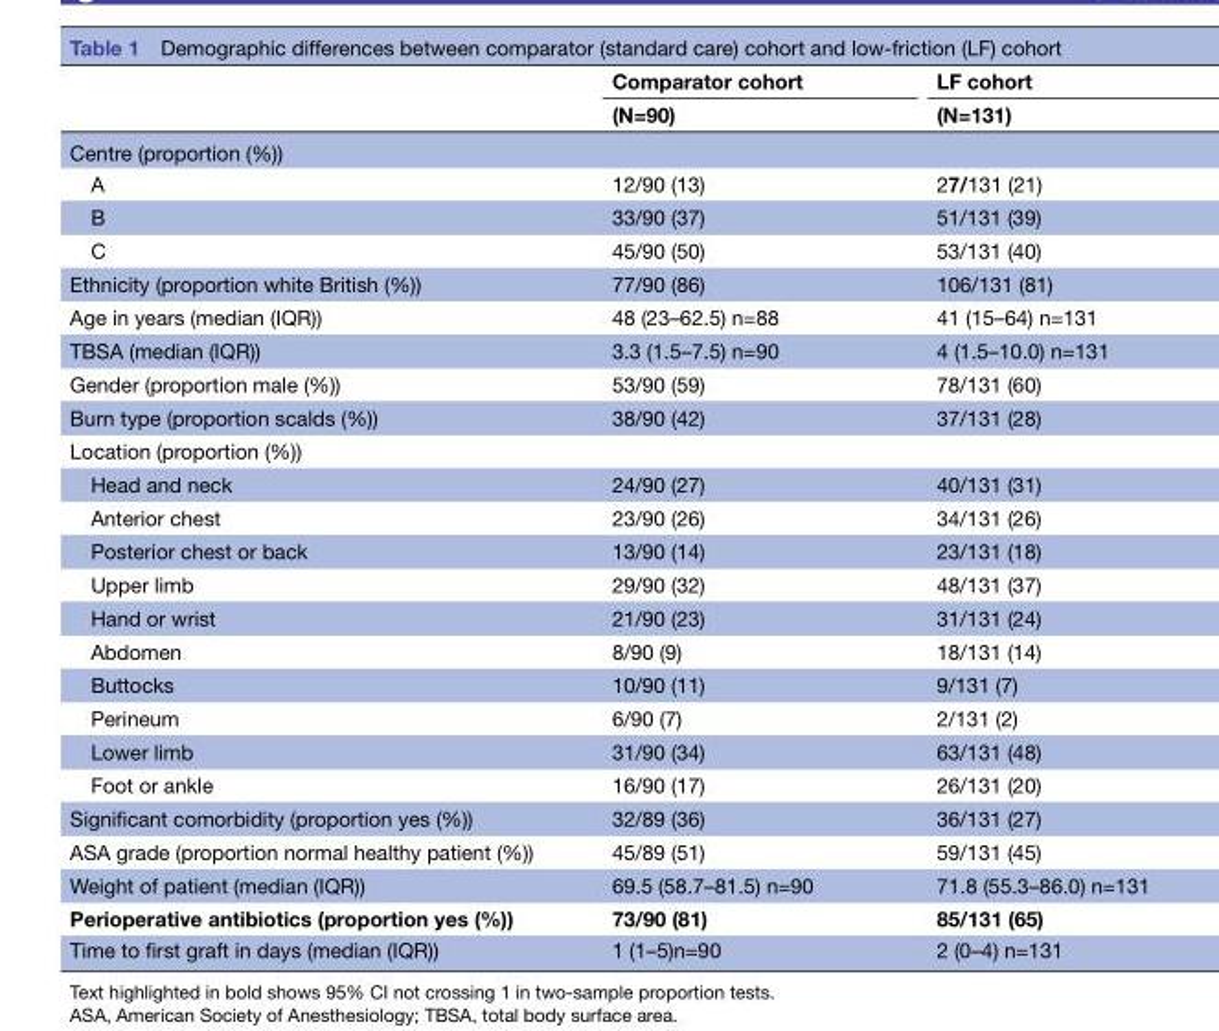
<table><thead><tr><td rowspan="2"></td><td rowspan="2">Comparator cohort (N=90)</td><td rowspan="2">LF cohort (N=131)</td></tr><tr></tr></thead><tbody><tr><td colspan="3">Centre (proportion (%))</td></tr><tr><td>A</td><td>12/90 (13)</td><td>27/131 (21)</td></tr><tr><td>B</td><td>33/90 (37)</td><td>51/131 (39)</td></tr><tr><td>C</td><td>45/90 (50)</td><td>53/131 (40)</td></tr><tr><td>Ethnicity (proportion white British (%))</td><td>77/90 (86)</td><td>106/131 (81)</td></tr><tr><td>Age in years (median (IQR))</td><td>48 (23–62.5) n=88</td><td>41 (15–64) n=131</td></tr><tr><td>TBSA (median (IQR))</td><td>3.3 (1.5–7.5) n=90</td><td>4 (1.5–10.0) n=131</td></tr><tr><td>Gender (proportion male (%))</td><td>53/90 (59)</td><td>78/131 (60)</td></tr><tr><td>Burn type (proportion scalds (%))</td><td>38/90 (42)</td><td>37/131 (28)</td></tr><tr><td colspan="3">Location (proportion (%))</td></tr><tr><td>Head and neck</td><td>24/90 (27)</td><td>40/131 (31)</td></tr><tr><td>Anterior chest</td><td>23/90 (26)</td><td>34/131 (26)</td></tr><tr><td>Posterior chest or back</td><td>13/90 (14)</td><td>23/131 (18)</td></tr><tr><td>Upper limb</td><td>29/90 (32)</td><td>48/131 (37)</td></tr><tr><td>Hand or wrist</td><td>21/90 (23)</td><td>31/131 (24)</td></tr><tr><td>Abdomen</td><td>8/90 (9)</td><td>18/131 (14)</td></tr><tr><td>Buttocks</td><td>10/90 (11)</td><td>9/131 (7)</td></tr><tr><td>Perineum</td><td>6/90 (7)</td><td>2/131 (2)</td></tr><tr><td>Lower limb</td><td>31/90 (34)</td><td>63/131 (48)</td></tr><tr><td>Foot or ankle</td><td>16/90 (17)</td><td>26/131 (20)</td></tr><tr><td>Significant comorbidity (proportion yes (%))</td><td>32/89 (36)</td><td>36/131 (27)</td></tr><tr><td>ASA grade (proportion normal healthy patient (%))</td><td>45/89 (51)</td><td>59/131 (45)</td></tr><tr><td>Weight of patient (median (IQR))</td><td>69.5 (58.7–81.5) n=90</td><td>71.8 (55.3–86.0) n=131</td></tr><tr><td>Perioperative antibiotics (proportion yes (%))</td><td>73/90 (81)</td><td>85/131 (65)</td></tr><tr><td>Time to first graft in days (median (IQR))</td><td>1 (1–5)n=90</td><td>2 (0–4) n=131</td></tr></tbody></table>